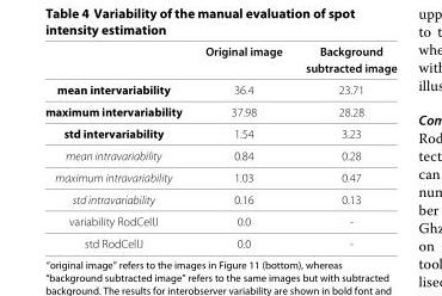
<table><thead><tr><td rowspan="2"></td><td rowspan="2">Original image</td><td rowspan="2">Background subtracted image</td></tr><tr></tr></thead><tbody><tr><td>mean intervariability</td><td>36.4</td><td>23.71</td></tr><tr><td>maximum intervariability</td><td>37.98</td><td>28.28</td></tr><tr><td>std intervariability</td><td>1.54</td><td>3.23</td></tr><tr><td>mean intravariability</td><td>0.84</td><td>0.28</td></tr><tr><td>maximum intravariability</td><td>1.03</td><td>0.47</td></tr><tr><td>std intravariability</td><td>0.16</td><td>0.13</td></tr><tr><td>variability RodCellJ</td><td>0.0</td><td>-</td></tr><tr><td>std RodCellJ</td><td>0.0</td><td>-</td></tr></tbody></table>